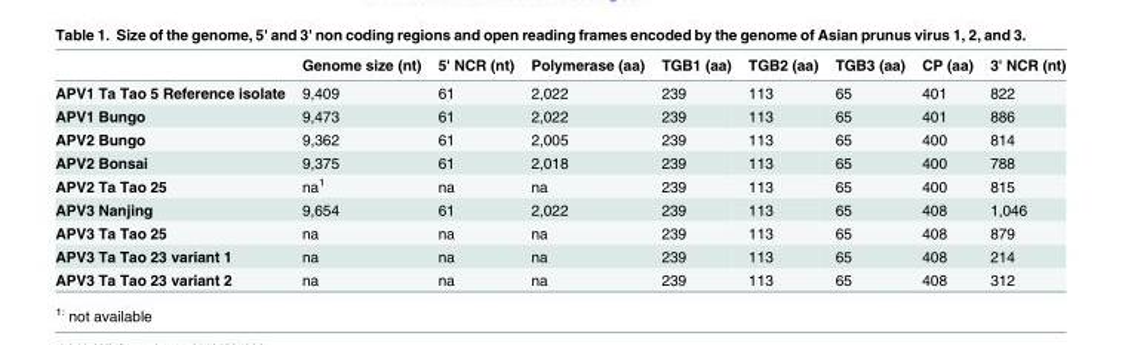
<table><thead><tr><td></td><td>Genome size (nt)</td><td>5&#x27; NCR (nt)</td><td>Polymerase (aa)</td><td>TGB1 (aa)</td><td>TGB2 (aa)</td><td>TGB3 (aa)</td><td>CP (aa)</td><td>3&#x27; NCR (nt)</td></tr></thead><tbody><tr><td>APV1 Ta Tao 5 Reference isolate</td><td>9,409</td><td>61</td><td>2,022</td><td>239</td><td>113</td><td>65</td><td>401</td><td>822</td></tr><tr><td>APV1 Bungo</td><td>9,473</td><td>61</td><td>2,022</td><td>239</td><td>113</td><td>65</td><td>401</td><td>886</td></tr><tr><td>APV2 Bungo</td><td>9,362</td><td>61</td><td>2,005</td><td>239</td><td>113</td><td>65</td><td>400</td><td>814</td></tr><tr><td>APV2 Bonsai</td><td>9,375</td><td>61</td><td>2,018</td><td>239</td><td>113</td><td>65</td><td>400</td><td>788</td></tr><tr><td>APV2 Ta Tao 25</td><td>na<sup>1</sup></td><td>na</td><td>na</td><td>239</td><td>113</td><td>65</td><td>400</td><td>815</td></tr><tr><td>APV3 Nanjing</td><td>9,654</td><td>61</td><td>2,022</td><td>239</td><td>113</td><td>65</td><td>408</td><td>1,046</td></tr><tr><td>APV3 Ta Tao 25</td><td>na</td><td>na</td><td>na</td><td>239</td><td>113</td><td>65</td><td>408</td><td>879</td></tr><tr><td>APV3 Ta Tao 23 variant 1</td><td>na</td><td>na</td><td>na</td><td>239</td><td>113</td><td>65</td><td>408</td><td>214</td></tr><tr><td>APV3 Ta Tao 23 variant 2</td><td>na</td><td>na</td><td>na</td><td>239</td><td>113</td><td>65</td><td>408</td><td>312</td></tr></tbody></table>